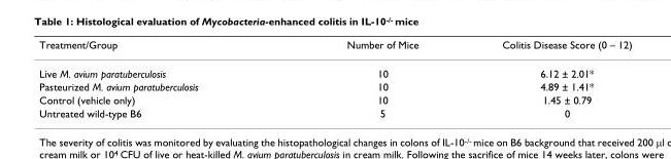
<table><thead><tr><td>Treatment/Group</td><td>Number of Mice</td><td>Colitis Disease Score (0 – 12)</td></tr></thead><tbody><tr><td>Live M. avium paratuberculosis</td><td>10</td><td>6.12 ± 2.01*</td></tr><tr><td>Pasteurized M. avium paratuberculosis</td><td>10</td><td>4.89 ± 1.41*</td></tr><tr><td>Control (vehicle only)</td><td>10</td><td>1.45 ± 0.79</td></tr><tr><td>Untreated wild-type B6</td><td>5</td><td>0</td></tr></tbody></table>